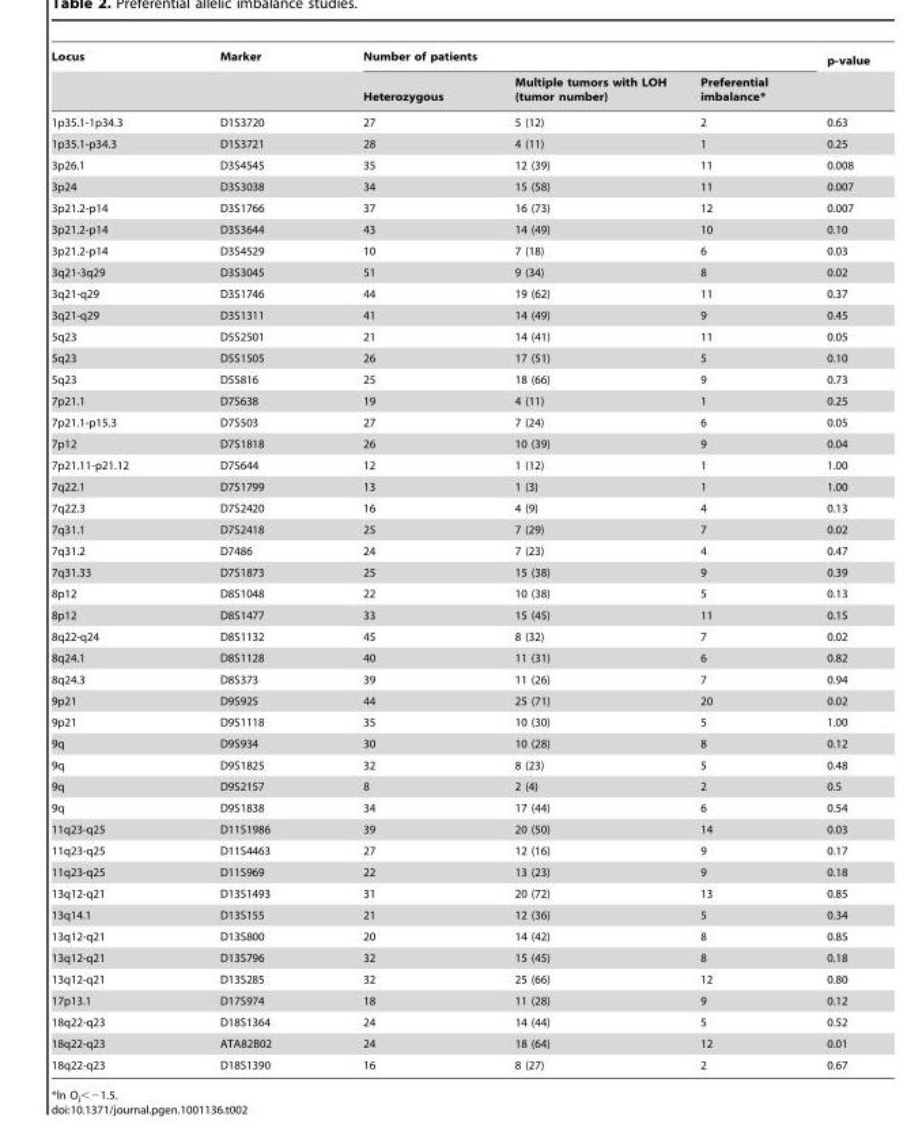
<table><thead><tr><td rowspan="2">Locus</td><td rowspan="2">Marker</td><td colspan="3">Number of patients</td><td rowspan="2">p-value</td></tr><tr><td>Heterozygous</td><td>Multiple tumors with LOH (tumor number)</td><td>Preferential imbalance*</td></tr></thead><tbody><tr><td>1p35.1-1p34.3</td><td>D1S3720</td><td>27</td><td>5 (12)</td><td>2</td><td>0.63</td></tr><tr><td>1p35.1-p34.3</td><td>D1S3721</td><td>28</td><td>4 (11)</td><td>1</td><td>0.25</td></tr><tr><td>3p26.1</td><td>D3S4545</td><td>35</td><td>12 (39)</td><td>11</td><td>0.008</td></tr><tr><td>3p24</td><td>D3S3038</td><td>34</td><td>15 (58)</td><td>11</td><td>0.007</td></tr><tr><td>3p21.2-p14</td><td>D3S1766</td><td>37</td><td>16 (73)</td><td>12</td><td>0.007</td></tr><tr><td>3p21.2-p14</td><td>D3S3644</td><td>43</td><td>14 (49)</td><td>10</td><td>0.10</td></tr><tr><td>3p21.2-p14</td><td>D3S4529</td><td>10</td><td>7 (18)</td><td>6</td><td>0.03</td></tr><tr><td>3q21-3q29</td><td>D3S3045</td><td>51</td><td>9 (34)</td><td>8</td><td>0.02</td></tr><tr><td>3q21-q29</td><td>D3S1746</td><td>44</td><td>19 (62)</td><td>11</td><td>0.37</td></tr><tr><td>3q21-q29</td><td>D3S1311</td><td>41</td><td>14 (49)</td><td>9</td><td>0.45</td></tr><tr><td>5q23</td><td>D5S2501</td><td>21</td><td>14 (41)</td><td>11</td><td>0.05</td></tr><tr><td>5q23</td><td>D5S1505</td><td>26</td><td>17 (51)</td><td>5</td><td>0.10</td></tr><tr><td>5q23</td><td>D5S816</td><td>25</td><td>18 (66)</td><td>9</td><td>0.73</td></tr><tr><td>7p21.1</td><td>D7S638</td><td>19</td><td>4 (11)</td><td>1</td><td>0.25</td></tr><tr><td>7p21.1-p15.3</td><td>D7S503</td><td>27</td><td>7 (24)</td><td>6</td><td>0.05</td></tr><tr><td>7p12</td><td>D7S1818</td><td>26</td><td>10 (39)</td><td>9</td><td>0.04</td></tr><tr><td>7p21.11-p21.12</td><td>D7S644</td><td>12</td><td>1 (12)</td><td>1</td><td>1.00</td></tr><tr><td>7q22.1</td><td>D7S1799</td><td>13</td><td>1 (3)</td><td>1</td><td>1.00</td></tr><tr><td>7q22.3</td><td>D7S2420</td><td>16</td><td>4 (9)</td><td>4</td><td>0.13</td></tr><tr><td>7q31.1</td><td>D7S2418</td><td>25</td><td>7 (29)</td><td>7</td><td>0.02</td></tr><tr><td>7q31.2</td><td>D7486</td><td>24</td><td>7 (23)</td><td>4</td><td>0.47</td></tr><tr><td>7q31.33</td><td>D7S1873</td><td>25</td><td>15 (38)</td><td>9</td><td>0.39</td></tr><tr><td>8p12</td><td>D8S1048</td><td>22</td><td>10 (38)</td><td>5</td><td>0.13</td></tr><tr><td>8p12</td><td>D8S1477</td><td>33</td><td>15 (45)</td><td>11</td><td>0.15</td></tr><tr><td>8q22-q24</td><td>D8S1132</td><td>45</td><td>8 (32)</td><td>7</td><td>0.02</td></tr><tr><td>8q24.1</td><td>D8S1128</td><td>40</td><td>11 (31)</td><td>6</td><td>0.82</td></tr><tr><td>8q24.3</td><td>D8S373</td><td>39</td><td>11 (26)</td><td>7</td><td>0.94</td></tr><tr><td>9p21</td><td>D9S925</td><td>44</td><td>25 (71)</td><td>20</td><td>0.02</td></tr><tr><td>9p21</td><td>D9S1118</td><td>35</td><td>10 (30)</td><td>5</td><td>1.00</td></tr><tr><td>9q</td><td>D9S934</td><td>30</td><td>10 (28)</td><td>8</td><td>0.12</td></tr><tr><td>9q</td><td>D9S1825</td><td>32</td><td>8 (23)</td><td>5</td><td>0.48</td></tr><tr><td>9q</td><td>D9S2157</td><td>8</td><td>2 (4)</td><td>2</td><td>0.5</td></tr><tr><td>9q</td><td>D9S1838</td><td>34</td><td>17 (44)</td><td>6</td><td>0.54</td></tr><tr><td>11q23-q25</td><td>D11S1986</td><td>39</td><td>20 (50)</td><td>14</td><td>0.03</td></tr><tr><td>11q23-q25</td><td>D11S4463</td><td>27</td><td>12 (16)</td><td>9</td><td>0.17</td></tr><tr><td>11q23-q25</td><td>D11S969</td><td>22</td><td>13 (23)</td><td>9</td><td>0.18</td></tr><tr><td>13q12-q21</td><td>D13S1493</td><td>31</td><td>20 (72)</td><td>13</td><td>0.85</td></tr><tr><td>13q14.1</td><td>D13S155</td><td>21</td><td>12 (36)</td><td>5</td><td>0.34</td></tr><tr><td>13q12-q21</td><td>D13S800</td><td>20</td><td>14 (42)</td><td>8</td><td>0.85</td></tr><tr><td>13q12-q21</td><td>D13S796</td><td>32</td><td>15 (45)</td><td>8</td><td>0.18</td></tr><tr><td>13q12-q21</td><td>D13S285</td><td>32</td><td>25 (66)</td><td>12</td><td>0.80</td></tr><tr><td>17p13.1</td><td>D17S974</td><td>18</td><td>11 (28)</td><td>9</td><td>0.12</td></tr><tr><td>18q22-q23</td><td>D18S1364</td><td>24</td><td>14 (44)</td><td>5</td><td>0.52</td></tr><tr><td>18q22-q23</td><td>ATA82B02</td><td>24</td><td>18 (64)</td><td>12</td><td>0.01</td></tr><tr><td>18q22-q23</td><td>D18S1390</td><td>16</td><td>8 (27)</td><td>2</td><td>0.67</td></tr></tbody></table>